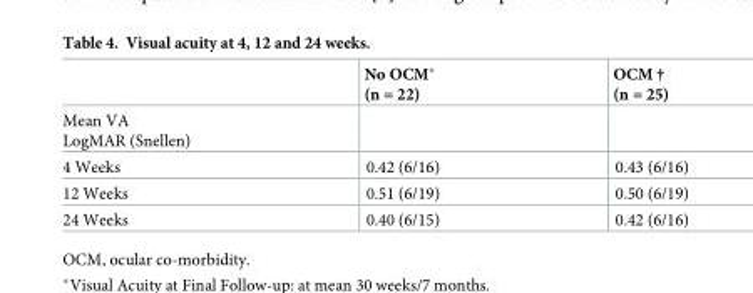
<table><thead><tr><td></td><td>No OCM* (n = 22)</td><td>OCM † (n = 25)</td></tr></thead><tbody><tr><td colspan="3">Mean VA LogMAR (Snellen)</td></tr><tr><td>4 Weeks</td><td>0.42 (6/16)</td><td>0.43 (6/16)</td></tr><tr><td>12 Weeks</td><td>0.51 (6/19)</td><td>0.50 (6/19)</td></tr><tr><td>24 Weeks</td><td>0.40 (6/15)</td><td>0.42 (6/16)</td></tr></tbody></table>